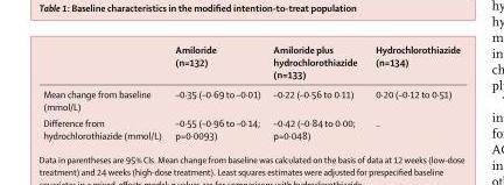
<table><thead><tr><td></td><td>Amiloride (n=132)</td><td>Amiloride plus hydrochlorothiazide (n=133)</td><td>Hydrochlorothiazide (n=134)</td></tr></thead><tbody><tr><td>Mean change from baseline (mmol/L)</td><td>–0·35 (–0·69 to –0·01)</td><td>–0·22 (–0·56 to 0·11)</td><td>0·20 (–0·12 to 0·51)</td></tr><tr><td>Diff erence from hydrochlorothiazide (mmol/L)</td><td>–0·55 (–0·96 to –0·14; p=0·0093)</td><td>–0·42 (–0·84 to 0·00; p=0·048)</td><td>..</td></tr></tbody></table>